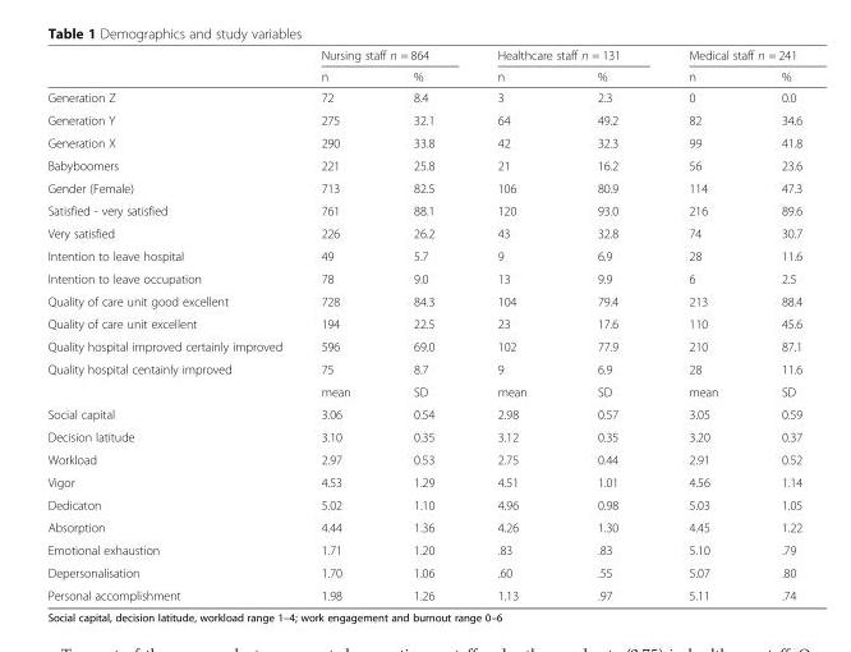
<table><thead><tr><td rowspan="2"></td><td colspan="2">Nursing staff n = 864</td><td colspan="2">Healthcare staff n = 131</td><td colspan="2">Medical staff n = 241</td></tr><tr><td>n</td><td>%</td><td>n</td><td>%</td><td>n</td><td>%</td></tr></thead><tbody><tr><td>Generation Z</td><td>72</td><td>8.4</td><td>3</td><td>2.3</td><td>0</td><td>0.0</td></tr><tr><td>Generation Y</td><td>275</td><td>32.1</td><td>64</td><td>49.2</td><td>82</td><td>34.6</td></tr><tr><td>Generation X</td><td>290</td><td>33.8</td><td>42</td><td>32.3</td><td>99</td><td>41.8</td></tr><tr><td>Babyboomers</td><td>221</td><td>25.8</td><td>21</td><td>16.2</td><td>56</td><td>23.6</td></tr><tr><td>Gender (Female)</td><td>713</td><td>82.5</td><td>106</td><td>80.9</td><td>114</td><td>47.3</td></tr><tr><td>Satisfied - very satisfied</td><td>761</td><td>88.1</td><td>120</td><td>93.0</td><td>216</td><td>89.6</td></tr><tr><td>Very satisfied</td><td>226</td><td>26.2</td><td>43</td><td>32.8</td><td>74</td><td>30.7</td></tr><tr><td>Intention to leave hospital</td><td>49</td><td>5.7</td><td>9</td><td>6.9</td><td>28</td><td>11.6</td></tr><tr><td>Intention to leave occupation</td><td>78</td><td>9.0</td><td>13</td><td>9.9</td><td>6</td><td>2.5</td></tr><tr><td>Quality of care unit good excellent</td><td>728</td><td>84.3</td><td>104</td><td>79.4</td><td>213</td><td>88.4</td></tr><tr><td>Quality of care unit excellent</td><td>194</td><td>22.5</td><td>23</td><td>17.6</td><td>110</td><td>45.6</td></tr><tr><td>Quality hospital improved certainly improved</td><td>596</td><td>69.0</td><td>102</td><td>77.9</td><td>210</td><td>87.1</td></tr><tr><td rowspan="2">Quality hospital centainly improved</td><td>75</td><td>8.7</td><td>9</td><td>6.9</td><td>28</td><td>11.6</td></tr><tr><td>mean</td><td>SD</td><td>mean</td><td>SD</td><td>mean</td><td>SD</td></tr><tr><td>Social capital</td><td>3.06</td><td>0.54</td><td>2.98</td><td>0.57</td><td>3.05</td><td>0.59</td></tr><tr><td>Decision latitude</td><td>3.10</td><td>0.35</td><td>3.12</td><td>0.35</td><td>3.20</td><td>0.37</td></tr><tr><td>Workload</td><td>2.97</td><td>0.53</td><td>2.75</td><td>0.44</td><td>2.91</td><td>0.52</td></tr><tr><td>Vigor</td><td>4.53</td><td>1.29</td><td>4.51</td><td>1.01</td><td>4.56</td><td>1.14</td></tr><tr><td>Dedicaton</td><td>5.02</td><td>1.10</td><td>4.96</td><td>0.98</td><td>5.03</td><td>1.05</td></tr><tr><td>Absorption</td><td>4.44</td><td>1.36</td><td>4.26</td><td>1.30</td><td>4.45</td><td>1.22</td></tr><tr><td>Emotional exhaustion</td><td>1.71</td><td>1.20</td><td>.83</td><td>.83</td><td>5.10</td><td>.79</td></tr><tr><td>Depersonalisation</td><td>1.70</td><td>1.06</td><td>.60</td><td>.55</td><td>5.07</td><td>.80</td></tr><tr><td>Personal accomplishment</td><td>1.98</td><td>1.26</td><td>1.13</td><td>.97</td><td>5.11</td><td>.74</td></tr></tbody></table>